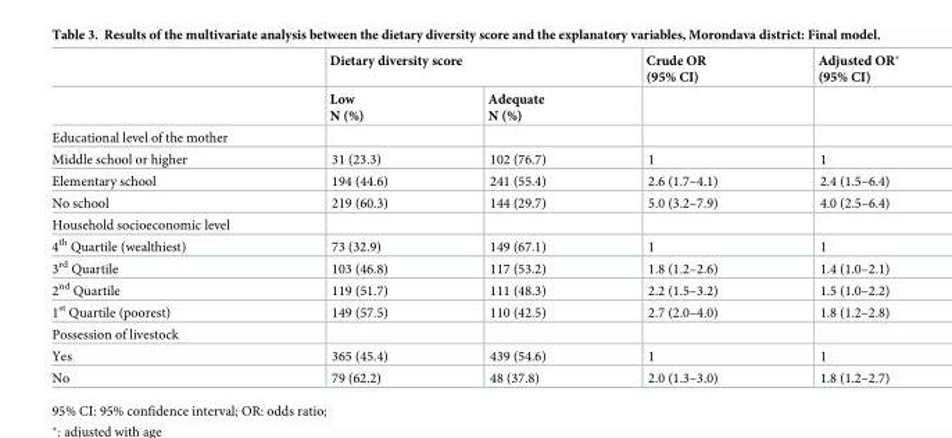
<table><thead><tr><td rowspan="2"></td><td colspan="2">Dietary diversity score</td><td rowspan="2">Crude OR (95% CI)</td><td rowspan="2">Adjusted OR* (95% CI)</td></tr><tr><td>Low N (%)</td><td>Adequate N (%)</td></tr></thead><tbody><tr><td colspan="5">Educational level of the mother</td></tr><tr><td>Middle school or higher</td><td>31 (23.3)</td><td>102 (76.7)</td><td>1</td><td>1</td></tr><tr><td>Elementary school</td><td>194 (44.6)</td><td>241 (55.4)</td><td>2.6 (1.7–4.1)</td><td>2.4 (1.5–6.4)</td></tr><tr><td>No school</td><td>219 (60.3)</td><td>144 (29.7)</td><td>5.0 (3.2–7.9)</td><td>4.0 (2.5–6.4)</td></tr><tr><td colspan="5">Household socioeconomic level</td></tr><tr><td>4<sup>th</sup> Quartile (wealthiest)</td><td>73 (32.9)</td><td>149 (67.1)</td><td>1</td><td>1</td></tr><tr><td>3<sup>rd</sup> Quartile</td><td>103 (46.8)</td><td>117 (53.2)</td><td>1.8 (1.2–2.6)</td><td>1.4 (1.0–2.1)</td></tr><tr><td>2<sup>nd</sup> Quartile</td><td>119 (51.7)</td><td>111 (48.3)</td><td>2.2 (1.5–3.2)</td><td>1.5 (1.0–2.2)</td></tr><tr><td>1<sup>st</sup> Quartile (poorest)</td><td>149 (57.5)</td><td>110 (42.5)</td><td>2.7 (2.0–4.0)</td><td>1.8 (1.2–2.8)</td></tr><tr><td colspan="5">Possession of livestock</td></tr><tr><td>Yes</td><td>365 (45.4)</td><td>439 (54.6)</td><td>1</td><td>1</td></tr><tr><td>No</td><td>79 (62.2)</td><td>48 (37.8)</td><td>2.0 (1.3–3.0)</td><td>1.8 (1.2–2.7)</td></tr></tbody></table>